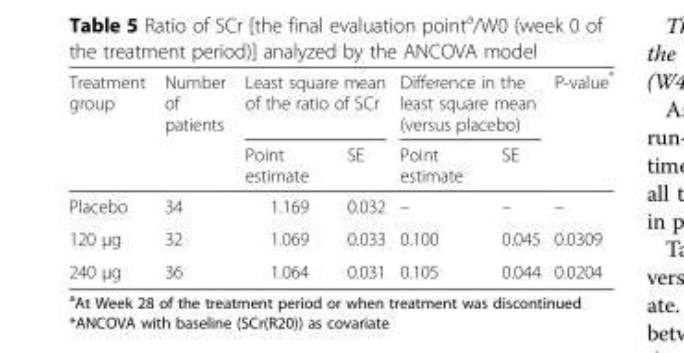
<table><thead><tr><td rowspan="2">Treatment group</td><td rowspan="2">Number of patients</td><td colspan="2">Least square mean of the ratio of SCr</td><td colspan="2">Difference in the least square mean (versus placebo)</td><td rowspan="2">P-value*</td></tr><tr><td>Point estimate</td><td>SE</td><td>Point estimate</td><td>SE</td></tr></thead><tbody><tr><td>Placebo</td><td>34</td><td>1.169</td><td>0.032</td><td>–</td><td>–</td><td>–</td></tr><tr><td>120 μg</td><td>32</td><td>1.069</td><td>0.033</td><td>0.100</td><td>0.045</td><td>0.0309</td></tr><tr><td>240 μg</td><td>36</td><td>1.064</td><td>0.031</td><td>0.105</td><td>0.044</td><td>0.0204</td></tr></tbody></table>